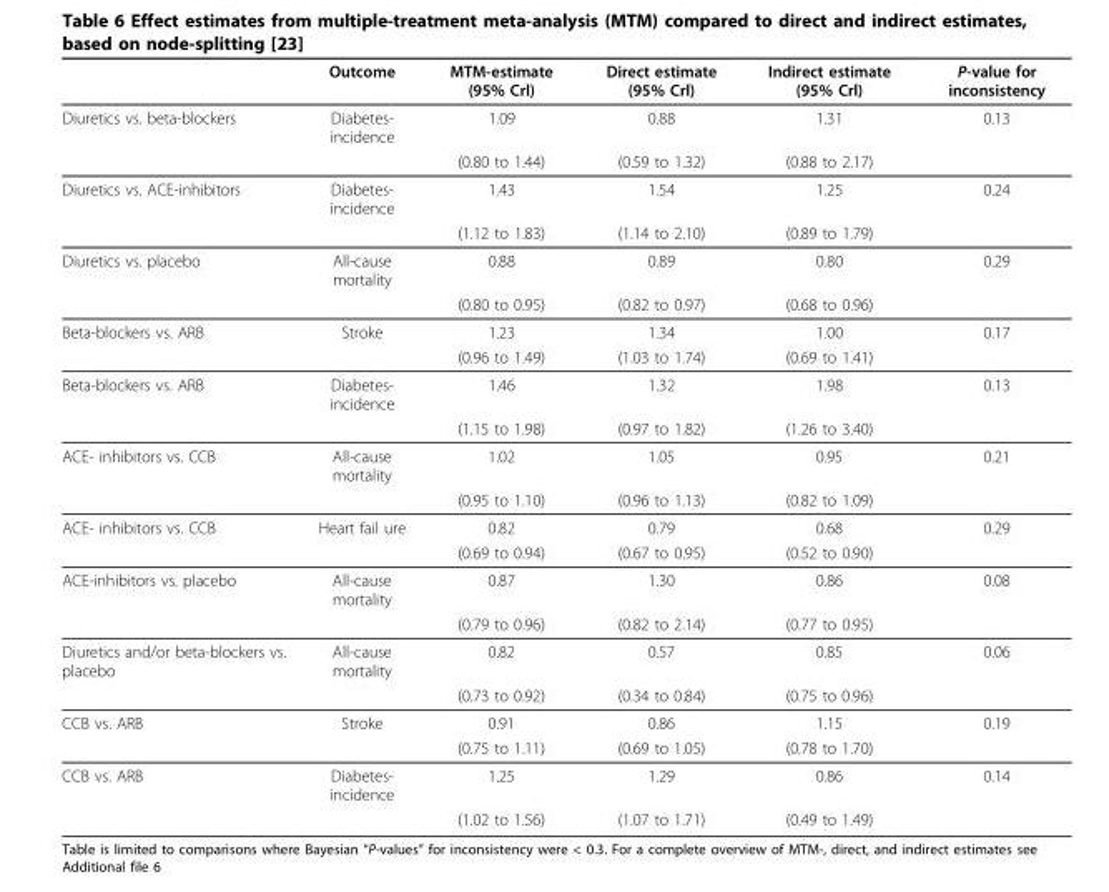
<table><thead><tr><td></td><td>Outcome</td><td>MTM-estimate (95% Crl)</td><td>Direct estimate (95% Crl)</td><td>Indirect estimate (95% Crl)</td><td>P-value for inconsistency</td></tr></thead><tbody><tr><td rowspan="2">Diuretics vs. beta-blockers</td><td>Diabetes- incidence</td><td>1.09</td><td>0.88</td><td>1.31</td><td>0.13</td></tr><tr><td></td><td>(0.80 to 1.44)</td><td>(0.59 to 1.32)</td><td>(0.88 to 2.17)</td><td></td></tr><tr><td rowspan="2">Diuretics vs. ACE-inhibitors</td><td>Diabetes- incidence</td><td>1.43</td><td>1.54</td><td>1.25</td><td>0.24</td></tr><tr><td></td><td>(1.12 to 1.83)</td><td>(1.14 to 2.10)</td><td>(0.89 to 1.79)</td><td></td></tr><tr><td rowspan="2">Diuretics vs. placebo</td><td>All-cause mortality</td><td>0.88</td><td>0.89</td><td>0.80</td><td>0.29</td></tr><tr><td></td><td>(0.80 to 0.95)</td><td>(0.82 to 0.97)</td><td>(0.68 to 0.96)</td><td></td></tr><tr><td rowspan="2">Beta-blockers vs. ARB</td><td>Stroke</td><td>1.23</td><td>1.34</td><td>1.00</td><td>0.17</td></tr><tr><td></td><td>(0.96 to 1.49)</td><td>(1.03 to 1.74)</td><td>(0.69 to 1.41)</td><td></td></tr><tr><td rowspan="2">Beta-blockers vs. ARB</td><td>Diabetes- incidence</td><td>1.46</td><td>1.32</td><td>1.98</td><td>0.13</td></tr><tr><td></td><td>(1.15 to 1.98)</td><td>(0.97 to 1.82)</td><td>(1.26 to 3.40)</td><td></td></tr><tr><td rowspan="2">ACE- inhibitors vs. CCB</td><td>All-cause mortality</td><td>1.02</td><td>1.05</td><td>0.95</td><td>0.21</td></tr><tr><td></td><td>(0.95 to 1.10)</td><td>(0.96 to 1.13)</td><td>(0.82 to 1.09)</td><td></td></tr><tr><td rowspan="2">ACE- inhibitors vs. CCB</td><td>Heart fail ure</td><td>0.82</td><td>0.79</td><td>0.68</td><td>0.29</td></tr><tr><td></td><td>(0.69 to 0.94)</td><td>(0.67 to 0.95)</td><td>(0.52 to 0.90)</td><td></td></tr><tr><td rowspan="2">ACE-inhibitors vs. placebo</td><td>All-cause mortality</td><td>0.87</td><td>1.30</td><td>0.86</td><td>0.08</td></tr><tr><td></td><td>(0.79 to 0.96)</td><td>(0.82 to 2.14)</td><td>(0.77 to 0.95)</td><td></td></tr><tr><td rowspan="2">Diuretics and/or beta-blockers vs. placebo</td><td>All-cause mortality</td><td>0.82</td><td>0.57</td><td>0.85</td><td>0.06</td></tr><tr><td></td><td>(0.73 to 0.92)</td><td>(0.34 to 0.84)</td><td>(0.75 to 0.96)</td><td></td></tr><tr><td rowspan="2">CCB vs. ARB</td><td>Stroke</td><td>0.91</td><td>0.86</td><td>1.15</td><td>0.19</td></tr><tr><td></td><td>(0.75 to 1.11)</td><td>(0.69 to 1.05)</td><td>(0.78 to 1.70)</td><td></td></tr><tr><td rowspan="2">CCB vs. ARB</td><td>Diabetes- incidence</td><td>1.25</td><td>1.29</td><td>0.86</td><td>0.14</td></tr><tr><td></td><td>(1.02 to 1.56)</td><td>(1.07 to 1.71)</td><td>(0.49 to 1.49)</td><td></td></tr></tbody></table>